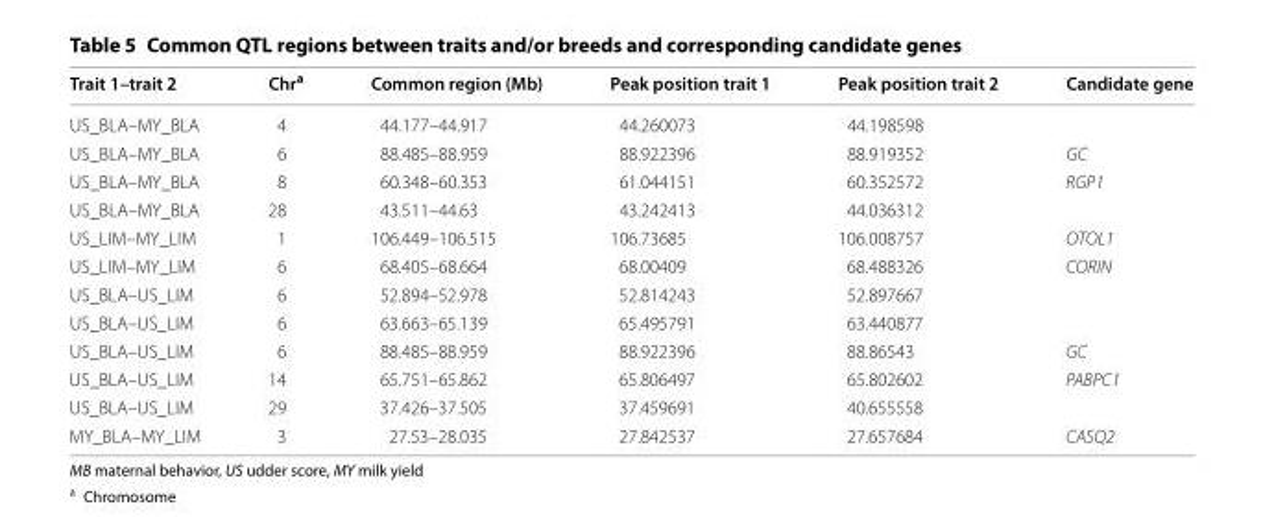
<table><thead><tr><td>Trait 1–trait 2</td><td>Chr<sup>a</sup></td><td>Common region (Mb)</td><td>Peak position trait 1</td><td>Peak position trait 2</td><td>Candidate gene</td></tr></thead><tbody><tr><td>US_BLA–MY_BLA</td><td>4</td><td>44.177–44.917</td><td>44.260073</td><td>44.198598</td><td></td></tr><tr><td>US_BLA–MY_BLA</td><td>6</td><td>88.485–88.959</td><td>88.922396</td><td>88.919352</td><td>GC</td></tr><tr><td>US_BLA–MY_BLA</td><td>8</td><td>60.348–60.353</td><td>61.044151</td><td>60.352572</td><td>RGP1</td></tr><tr><td>US_BLA–MY_BLA</td><td>28</td><td>43.511–44.63</td><td>43.242413</td><td>44.036312</td><td></td></tr><tr><td>US_LIM–MY_LIM</td><td>1</td><td>106.449–106.515</td><td>106.73685</td><td>106.008757</td><td>OTOL1</td></tr><tr><td>US_LIM–MY_LIM</td><td>6</td><td>68.405–68.664</td><td>68.00409</td><td>68.488326</td><td>CORIN</td></tr><tr><td>US_BLA–US_LIM</td><td>6</td><td>52.894–52.978</td><td>52.814243</td><td>52.897667</td><td></td></tr><tr><td>US_BLA–US_LIM</td><td>6</td><td>63.663–65.139</td><td>65.495791</td><td>63.440877</td><td></td></tr><tr><td>US_BLA–US_LIM</td><td>6</td><td>88.485–88.959</td><td>88.922396</td><td>88.86543</td><td>GC</td></tr><tr><td>US_BLA–US_LIM</td><td>14</td><td>65.751–65.862</td><td>65.806497</td><td>65.802602</td><td>PABPC1</td></tr><tr><td>US_BLA–US_LIM</td><td>29</td><td>37.426–37.505</td><td>37.459691</td><td>40.655558</td><td></td></tr><tr><td>MY_BLA–MY_LIM</td><td>3</td><td>27.53–28.035</td><td>27.842537</td><td>27.657684</td><td>CASQ2</td></tr></tbody></table>